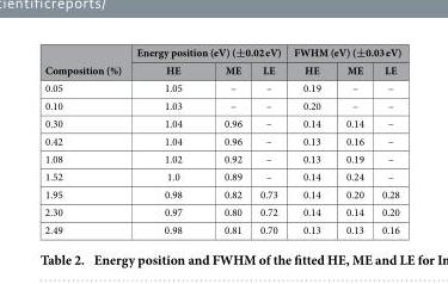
<table><thead><tr><td rowspan="2">Composition (%)</td><td colspan="3">Energy position (eV) (±0.02 eV)</td><td colspan="3">FWHM (eV) (±0.03 eV)</td></tr><tr><td>HE</td><td>ME</td><td>LE</td><td>HE</td><td>ME</td><td>LE</td></tr></thead><tbody><tr><td>0.05</td><td>1.05</td><td>–</td><td>–</td><td>0.19</td><td>–</td><td>–</td></tr><tr><td>0.10</td><td>1.03</td><td>–</td><td>–</td><td>0.20</td><td>–</td><td>–</td></tr><tr><td>0.30</td><td>1.04</td><td>0.96</td><td>–</td><td>0.14</td><td>0.14</td><td>–</td></tr><tr><td>0.42</td><td>1.04</td><td>0.96</td><td>–</td><td>0.13</td><td>0.16</td><td>–</td></tr><tr><td>1.08</td><td>1.02</td><td>0.92</td><td>–</td><td>0.13</td><td>0.19</td><td>–</td></tr><tr><td>1.52</td><td>1.0</td><td>0.89</td><td>–</td><td>0.14</td><td>0.24</td><td>–</td></tr><tr><td>1.95</td><td>0.98</td><td>0.82</td><td>0.73</td><td>0.14</td><td>0.20</td><td>0.28</td></tr><tr><td>2.30</td><td>0.97</td><td>0.80</td><td>0.72</td><td>0.14</td><td>0.14</td><td>0.20</td></tr><tr><td>2.49</td><td>0.98</td><td>0.81</td><td>0.70</td><td>0.13</td><td>0.13</td><td>0.16</td></tr></tbody></table>